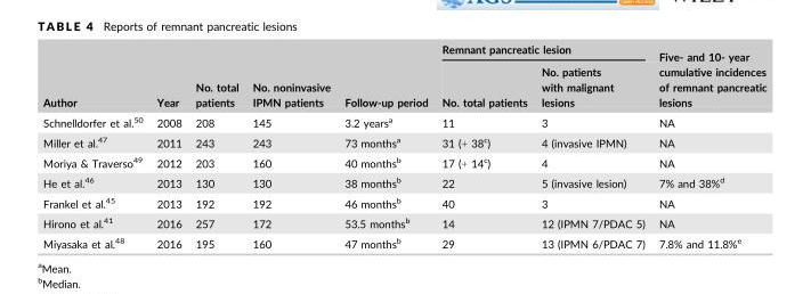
<table><thead><tr><td rowspan="2">Author</td><td rowspan="2">Year</td><td rowspan="2">No. total patients</td><td rowspan="2">No. noninvasive IPMN patients</td><td rowspan="2">Follow-up period</td><td colspan="2">Remnant pancreatic lesion</td><td rowspan="2">Five- and 10- year cumulative incidences of remnant pancreatic lesions</td></tr><tr><td>No. total patients</td><td>No. patients with malignant lesions</td></tr></thead><tbody><tr><td>Schnelldorfer et al.<sup>50</sup></td><td>2008</td><td>208</td><td>145</td><td>3.2 years<sup>a</sup></td><td>11</td><td>3</td><td>NA</td></tr><tr><td>Miller et al.<sup>47</sup></td><td>2011</td><td>243</td><td>243</td><td>73 months<sup>a</sup></td><td>31 (+ 38<sup>c</sup>)</td><td>4 (invasive IPMN)</td><td>NA</td></tr><tr><td>Moriya &amp; Traverso<sup>49</sup></td><td>2012</td><td>203</td><td>160</td><td>40 months<sup>b</sup></td><td>17 (+ 14<sup>c</sup>)</td><td>4</td><td>NA</td></tr><tr><td>He et al.<sup>46</sup></td><td>2013</td><td>130</td><td>130</td><td>38 months<sup>b</sup></td><td>22</td><td>5 (invasive lesion)</td><td>7% and 38%<sup>d</sup></td></tr><tr><td>Frankel et al.<sup>45</sup></td><td>2013</td><td>192</td><td>192</td><td>46 months<sup>b</sup></td><td>40</td><td>3</td><td>NA</td></tr><tr><td>Hirono et al.<sup>41</sup></td><td>2016</td><td>257</td><td>172</td><td>53.5 months<sup>b</sup></td><td>14</td><td>12 (IPMN 7/PDAC 5)</td><td>NA</td></tr><tr><td>Miyasaka et al.<sup>48</sup></td><td>2016</td><td>195</td><td>160</td><td>47 months<sup>b</sup></td><td>29</td><td>13 (IPMN 6/PDAC 7)</td><td>7.8% and 11.8%<sup>e</sup></td></tr></tbody></table>